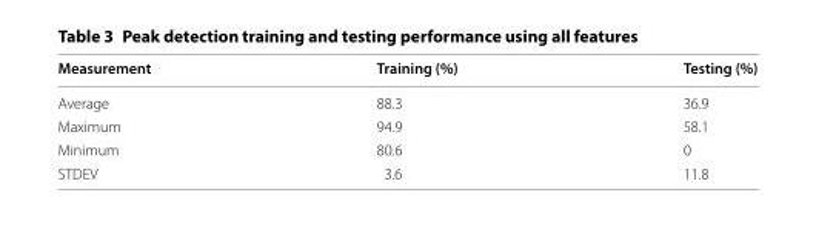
<table><thead><tr><td>Measurement</td><td>Training (%)</td><td>Testing (%)</td></tr></thead><tbody><tr><td>Average</td><td>88.3</td><td>36.9</td></tr><tr><td>Maximum</td><td>94.9</td><td>58.1</td></tr><tr><td>Minimum</td><td>80.6</td><td>0</td></tr><tr><td>STDEV</td><td>3.6</td><td>11.8</td></tr></tbody></table>